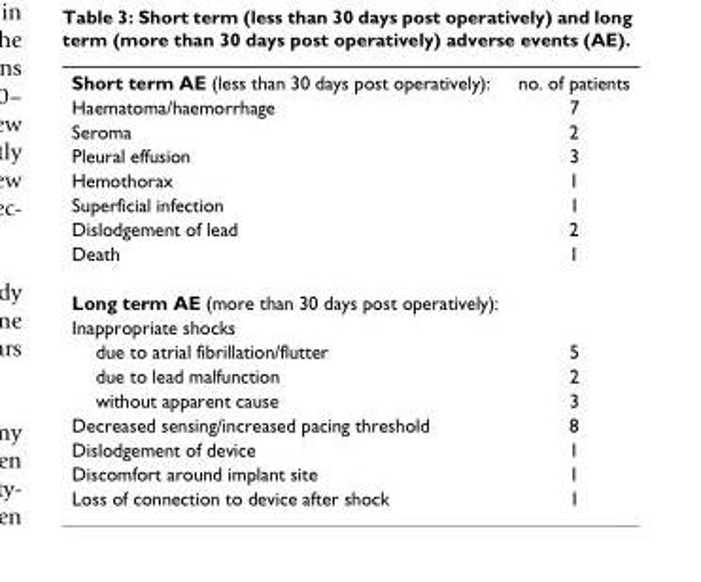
<table><tbody><tr><td>Short term AE (less than 30 days post operatively):</td><td>no. of patients</td></tr><tr><td>Haematoma/haemorrhage</td><td>7</td></tr><tr><td>Seroma</td><td>2</td></tr><tr><td>Pleural effusion</td><td>3</td></tr><tr><td>Hemothorax</td><td>1</td></tr><tr><td>Superficial infection</td><td>1</td></tr><tr><td>Dislodgement of lead</td><td>2</td></tr><tr><td>Death</td><td>1</td></tr><tr><td colspan="2">Long term AE (more than 30 days post operatively):</td></tr><tr><td colspan="2">Inappropriate shocks</td></tr><tr><td>due to atrial fibrillation/flutter</td><td>5</td></tr><tr><td>due to lead malfunction</td><td>2</td></tr><tr><td>without apparent cause</td><td>3</td></tr><tr><td>Decreased sensing/increased pacing threshold</td><td>8</td></tr><tr><td>Dislodgement of device</td><td>1</td></tr><tr><td>Discomfort around implant site</td><td>1</td></tr><tr><td>Loss of connection to device after shock</td><td>1</td></tr></tbody></table>